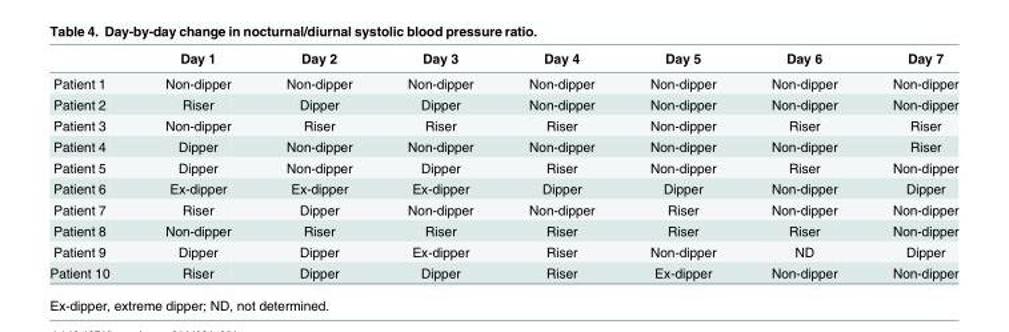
<table><thead><tr><td></td><td>Day 1</td><td>Day 2</td><td>Day 3</td><td>Day 4</td><td>Day 5</td><td>Day 6</td><td>Day 7</td></tr></thead><tbody><tr><td>Patient 1</td><td>Non-dipper</td><td>Non-dipper</td><td>Non-dipper</td><td>Non-dipper</td><td>Non-dipper</td><td>Non-dipper</td><td>Non-dipper</td></tr><tr><td>Patient 2</td><td>Riser</td><td>Dipper</td><td>Dipper</td><td>Non-dipper</td><td>Non-dipper</td><td>Non-dipper</td><td>Non-dipper</td></tr><tr><td>Patient 3</td><td>Non-dipper</td><td>Riser</td><td>Riser</td><td>Riser</td><td>Non-dipper</td><td>Riser</td><td>Riser</td></tr><tr><td>Patient 4</td><td>Dipper</td><td>Non-dipper</td><td>Non-dipper</td><td>Non-dipper</td><td>Non-dipper</td><td>Non-dipper</td><td>Riser</td></tr><tr><td>Patient 5</td><td>Dipper</td><td>Non-dipper</td><td>Dipper</td><td>Riser</td><td>Non-dipper</td><td>Riser</td><td>Non-dipper</td></tr><tr><td>Patient 6</td><td>Ex-dipper</td><td>Ex-dipper</td><td>Ex-dipper</td><td>Dipper</td><td>Dipper</td><td>Non-dipper</td><td>Dipper</td></tr><tr><td>Patient 7</td><td>Riser</td><td>Dipper</td><td>Non-dipper</td><td>Non-dipper</td><td>Riser</td><td>Non-dipper</td><td>Non-dipper</td></tr><tr><td>Patient 8</td><td>Non-dipper</td><td>Riser</td><td>Riser</td><td>Riser</td><td>Riser</td><td>Riser</td><td>Non-dipper</td></tr><tr><td>Patient 9</td><td>Dipper</td><td>Dipper</td><td>Ex-dipper</td><td>Riser</td><td>Non-dipper</td><td>ND</td><td>Dipper</td></tr><tr><td>Patient 10</td><td>Riser</td><td>Dipper</td><td>Dipper</td><td>Riser</td><td>Ex-dipper</td><td>Non-dipper</td><td>Non-dipper</td></tr></tbody></table>